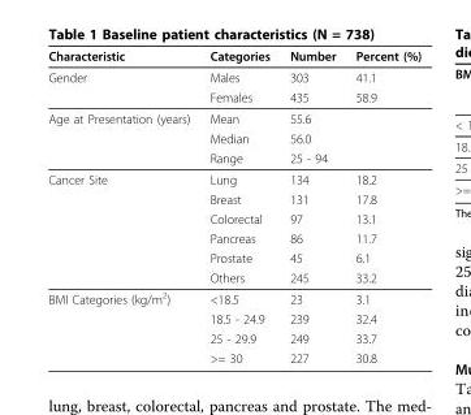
<table><thead><tr><td>Characteristic</td><td>Categories</td><td>Number</td><td>Percent (%)</td></tr></thead><tbody><tr><td rowspan="2">Gender</td><td>Males</td><td>303</td><td>41.1</td></tr><tr><td>Females</td><td>435</td><td>58.9</td></tr><tr><td rowspan="3">Age at Presentation (years)</td><td>Mean</td><td>55.6</td><td></td></tr><tr><td>Median</td><td>56.0</td><td></td></tr><tr><td>Range</td><td>25 - 94</td><td></td></tr><tr><td rowspan="6">Cancer Site</td><td>Lung</td><td>134</td><td>18.2</td></tr><tr><td>Breast</td><td>131</td><td>17.8</td></tr><tr><td>Colorectal</td><td>97</td><td>13.1</td></tr><tr><td>Pancreas</td><td>86</td><td>11.7</td></tr><tr><td>Prostate</td><td>45</td><td>6.1</td></tr><tr><td>Others</td><td>245</td><td>33.2</td></tr><tr><td rowspan="4">BMI Categories (kg/m<sup>2</sup>)</td><td>&lt;18.5</td><td>23</td><td>3.1</td></tr><tr><td>18.5 - 24.9</td><td>239</td><td>32.4</td></tr><tr><td>25 - 29.9</td><td>249</td><td>33.7</td></tr><tr><td>&gt;= 30</td><td>227</td><td>30.8</td></tr></tbody></table>